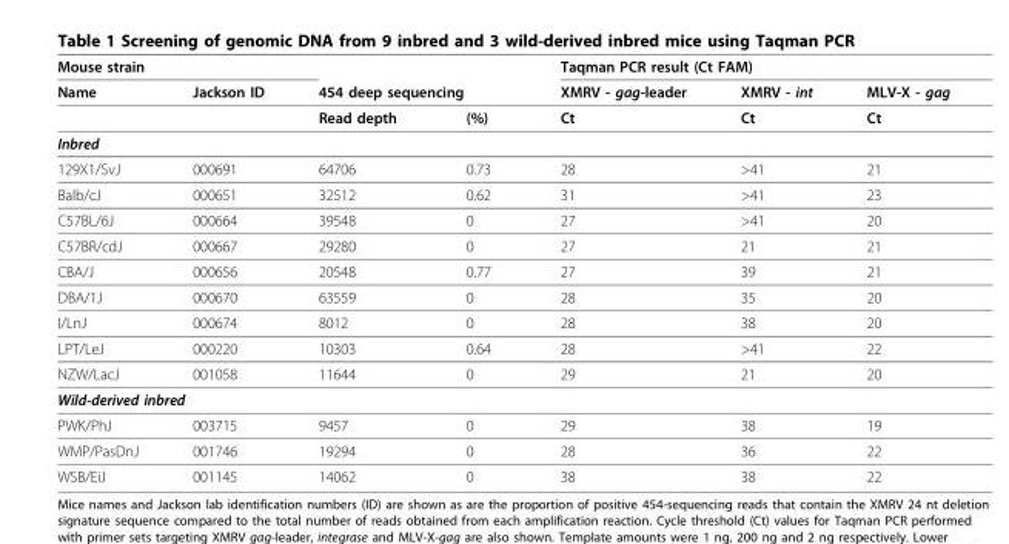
<table><thead><tr><td colspan="2">Mouse strain</td><td></td><td></td><td colspan="3">Taqman PCR result (Ct FAM)</td></tr><tr><td>Name</td><td>Jackson ID</td><td colspan="2">454 deep sequencing</td><td>XMRV - gag-leader</td><td>XMRV - int</td><td>MLV-X - gag</td></tr></thead><tbody><tr><td></td><td></td><td>Read depth</td><td>(%)</td><td>Ct</td><td>Ct</td><td>Ct</td></tr><tr><td colspan="7">Inbred</td></tr><tr><td>129X1/SvJ</td><td>000691</td><td>64706</td><td>0.73</td><td>28</td><td>&gt;41</td><td>21</td></tr><tr><td>Balb/cJ</td><td>000651</td><td>32512</td><td>0.62</td><td>31</td><td>&gt;41</td><td>23</td></tr><tr><td>C57BL/6J</td><td>000664</td><td>39548</td><td>0</td><td>27</td><td>&gt;41</td><td>20</td></tr><tr><td>C57BR/cdJ</td><td>000667</td><td>29280</td><td>0</td><td>27</td><td>21</td><td>21</td></tr><tr><td>CBA/J</td><td>000656</td><td>20548</td><td>0.77</td><td>27</td><td>39</td><td>21</td></tr><tr><td>DBA/1J</td><td>000670</td><td>63559</td><td>0</td><td>28</td><td>35</td><td>20</td></tr><tr><td>I/LnJ</td><td>000674</td><td>8012</td><td>0</td><td>28</td><td>38</td><td>20</td></tr><tr><td>LPT/LeJ</td><td>000220</td><td>10303</td><td>0.64</td><td>28</td><td>&gt;41</td><td>22</td></tr><tr><td>NZW/LacJ</td><td>001058</td><td>11644</td><td>0</td><td>29</td><td>21</td><td>20</td></tr><tr><td colspan="7">Wild-derived inbred</td></tr><tr><td>PWK/PhJ</td><td>003715</td><td>9457</td><td>0</td><td>29</td><td>38</td><td>19</td></tr><tr><td>WMP/PasDnJ</td><td>001746</td><td>19294</td><td>0</td><td>28</td><td>36</td><td>22</td></tr><tr><td>WSB/EiJ</td><td>001145</td><td>14062</td><td>0</td><td>38</td><td>38</td><td>22</td></tr></tbody></table>